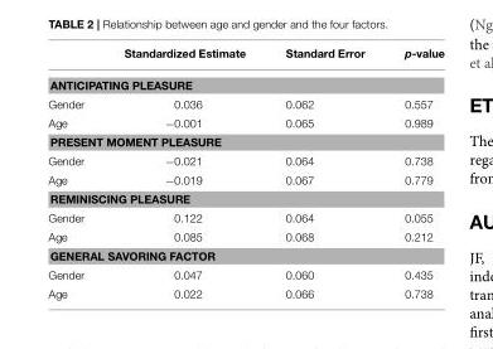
<table><thead><tr><td></td><td>Standardized Estimate</td><td>Standard Error</td><td>p-value</td></tr></thead><tbody><tr><td colspan="4">ANTICIPATING PLEASURE</td></tr><tr><td>Gender</td><td>0.036</td><td>0.062</td><td>0.557</td></tr><tr><td>Age</td><td>−0.001</td><td>0.065</td><td>0.989</td></tr><tr><td colspan="4">PRESENT MOMENT PLEASURE</td></tr><tr><td>Gender</td><td>−0.021</td><td>0.064</td><td>0.738</td></tr><tr><td>Age</td><td>−0.019</td><td>0.067</td><td>0.779</td></tr><tr><td colspan="4">REMINISCING PLEASURE</td></tr><tr><td>Gender</td><td>0.122</td><td>0.064</td><td>0.055</td></tr><tr><td>Age</td><td>0.085</td><td>0.068</td><td>0.212</td></tr><tr><td colspan="4">GENERAL SAVORING FACTOR</td></tr><tr><td>Gender</td><td>0.047</td><td>0.060</td><td>0.435</td></tr><tr><td>Age</td><td>0.022</td><td>0.066</td><td>0.738</td></tr></tbody></table>